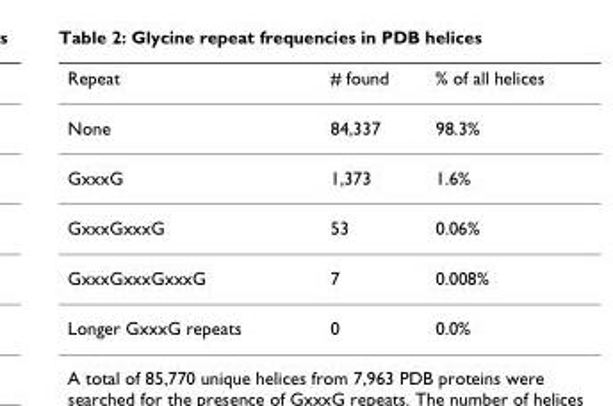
<table><thead><tr><td>Repeat</td><td># found</td><td>% of all helices</td></tr></thead><tbody><tr><td>None</td><td>84,337</td><td>98.3%</td></tr><tr><td>GxxxG</td><td>1,373</td><td>1.6%</td></tr><tr><td>GxxxGxxxG</td><td>53</td><td>0.06%</td></tr><tr><td>GxxxGxxxGxxxG</td><td>7</td><td>0.008%</td></tr><tr><td>Longer GxxxG repeats</td><td>0</td><td>0.0%</td></tr></tbody></table>